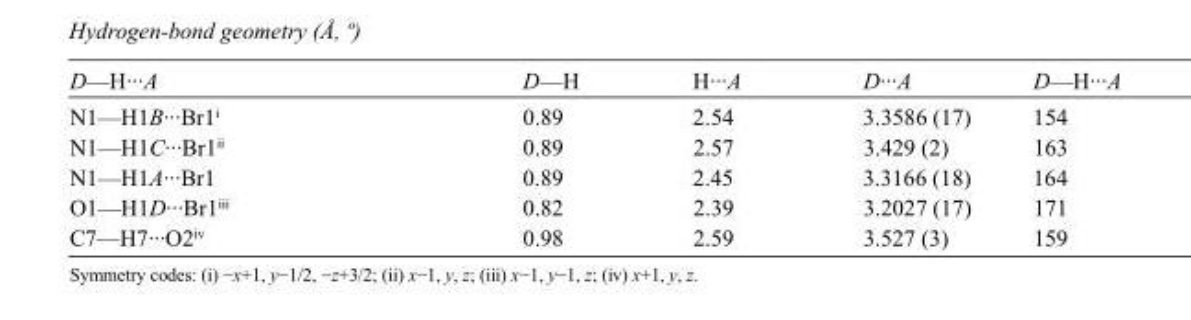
<table><tbody><tr><td>D—H···A</td><td>D—H</td><td>H···A</td><td>D···A</td><td>D—H···A</td></tr><tr><td>N1—H1B···Br1<sup>i</sup></td><td>0.89</td><td>2.54</td><td>3.3586 (17)</td><td>154</td></tr><tr><td>N1—H1C···Br1<sup>ii</sup></td><td>0.89</td><td>2.57</td><td>3.429 (2)</td><td>163</td></tr><tr><td>N1—H1A···Br1</td><td>0.89</td><td>2.45</td><td>3.3166 (18)</td><td>164</td></tr><tr><td>O1—H1D···Br1<sup>iii</sup></td><td>0.82</td><td>2.39</td><td>3.2027 (17)</td><td>171</td></tr><tr><td>C7—H7···O2<sup>iv</sup></td><td>0.98</td><td>2.59</td><td>3.527 (3)</td><td>159</td></tr></tbody></table>